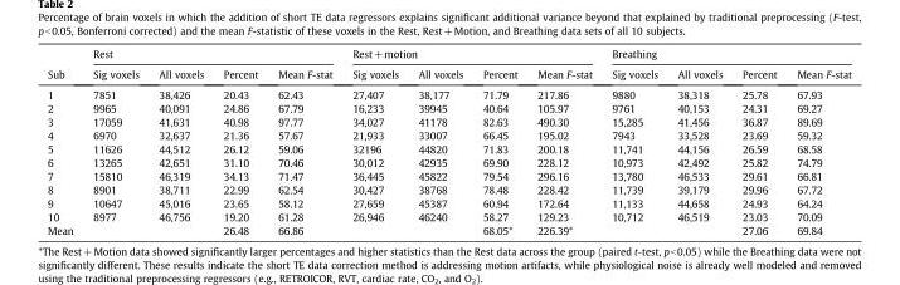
<table><thead><tr><td rowspan="2">Sub</td><td colspan="4">Rest</td><td colspan="4">Rest+motion</td><td colspan="4">Breathing</td></tr><tr><td>Sig voxels</td><td>All voxels</td><td>Percent</td><td>Mean F-stat</td><td>Sig voxels</td><td>All voxels</td><td>Percent</td><td>Mean F-stat</td><td>Sig voxels</td><td>All voxels</td><td>Percent</td><td>Mean F-stat</td></tr></thead><tbody><tr><td>1</td><td>7851</td><td>38,426</td><td>20.43</td><td>62.43</td><td>27,407</td><td>38,177</td><td>71.79</td><td>217.86</td><td>9880</td><td>38,318</td><td>25.78</td><td>67.93</td></tr><tr><td>2</td><td>9965</td><td>40,091</td><td>24.86</td><td>67.79</td><td>16,233</td><td>39945</td><td>40.64</td><td>105.97</td><td>9761</td><td>40,153</td><td>24.31</td><td>69.27</td></tr><tr><td>3</td><td>17059</td><td>41,631</td><td>40.98</td><td>97.77</td><td>34,027</td><td>41178</td><td>82.63</td><td>490.30</td><td>15,285</td><td>41,456</td><td>36.87</td><td>89.69</td></tr><tr><td>4</td><td>6970</td><td>32,637</td><td>21.36</td><td>57.67</td><td>21,933</td><td>33007</td><td>66.45</td><td>195.02</td><td>7943</td><td>33,528</td><td>23.69</td><td>59.32</td></tr><tr><td>5</td><td>11626</td><td>44,512</td><td>26.12</td><td>59.06</td><td>32196</td><td>44820</td><td>71.83</td><td>200.18</td><td>11,741</td><td>44,156</td><td>26.59</td><td>68.58</td></tr><tr><td>6</td><td>13265</td><td>42,651</td><td>31.10</td><td>70.46</td><td>30,012</td><td>42935</td><td>69.90</td><td>228.12</td><td>10,973</td><td>42,492</td><td>25.82</td><td>74.79</td></tr><tr><td>7</td><td>15810</td><td>46,319</td><td>34.13</td><td>71.47</td><td>36,445</td><td>45822</td><td>79.54</td><td>296.16</td><td>13,780</td><td>46,533</td><td>29.61</td><td>66.81</td></tr><tr><td>8</td><td>8901</td><td>38,711</td><td>22.99</td><td>62.54</td><td>30,427</td><td>38768</td><td>78.48</td><td>228.42</td><td>11,739</td><td>39,179</td><td>29.96</td><td>67.72</td></tr><tr><td>9</td><td>10647</td><td>45,016</td><td>23.65</td><td>58.12</td><td>27,659</td><td>45387</td><td>60.94</td><td>172.64</td><td>11,133</td><td>44,658</td><td>24.93</td><td>64.24</td></tr><tr><td>10</td><td>8977</td><td>46,756</td><td>19.20</td><td>61.28</td><td>26,946</td><td>46240</td><td>58.27</td><td>129.23</td><td>10,712</td><td>46,519</td><td>23.03</td><td>70.09</td></tr><tr><td>Mean</td><td></td><td></td><td>26.48</td><td>66.86</td><td></td><td></td><td>68.05*</td><td>226.39*</td><td></td><td></td><td>27.06</td><td>69.84</td></tr></tbody></table>